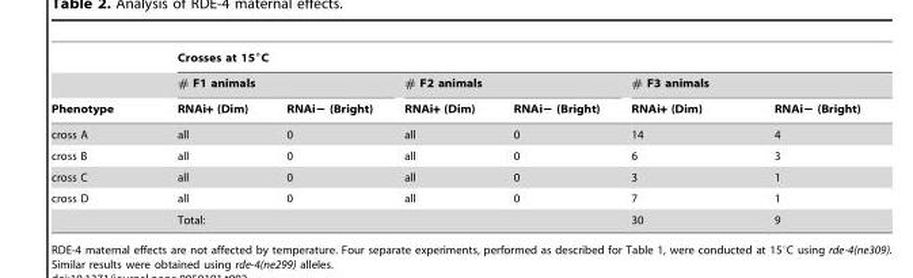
<table><thead><tr><td rowspan="3">Phenotype</td><td colspan="6">Crosses at 15°C</td></tr><tr><td colspan="2"># F1 animals</td><td colspan="2"># F2 animals</td><td colspan="2"># F3 animals</td></tr><tr><td>RNAi+ (Dim)</td><td>RNAi− (Bright)</td><td>RNAi+ (Dim)</td><td>RNAi− (Bright)</td><td>RNAi+ (Dim)</td><td>RNAi− (Bright)</td></tr></thead><tbody><tr><td>cross A</td><td>all</td><td>0</td><td>all</td><td>0</td><td>14</td><td>4</td></tr><tr><td>cross B</td><td>all</td><td>0</td><td>all</td><td>0</td><td>6</td><td>3</td></tr><tr><td>cross C</td><td>all</td><td>0</td><td>all</td><td>0</td><td>3</td><td>1</td></tr><tr><td rowspan="2">cross D</td><td>all</td><td>0</td><td>all</td><td>0</td><td>7</td><td>1</td></tr><tr><td colspan="4">Total:</td><td>30</td><td>9</td></tr></tbody></table>